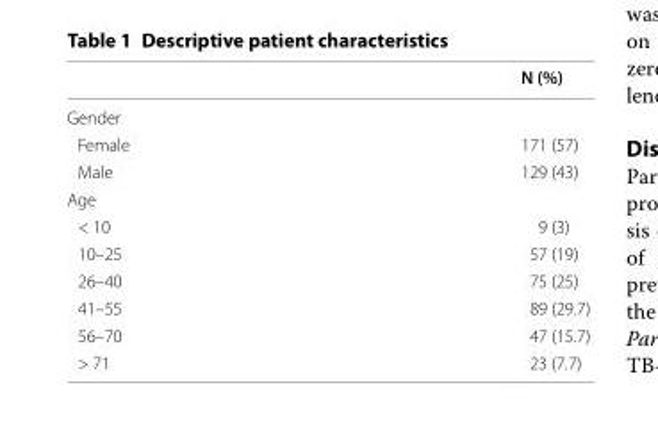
<table><thead><tr><td></td><td>N (%)</td></tr></thead><tbody><tr><td colspan="2">Gender</td></tr><tr><td>Female</td><td>171 (57)</td></tr><tr><td>Male</td><td>129 (43)</td></tr><tr><td colspan="2">Age</td></tr><tr><td>&lt; 10</td><td>9 (3)</td></tr><tr><td>10–25</td><td>57 (19)</td></tr><tr><td>26–40</td><td>75 (25)</td></tr><tr><td>41–55</td><td>89 (29.7)</td></tr><tr><td>56–70</td><td>47 (15.7)</td></tr><tr><td>&gt; 71</td><td>23 (7.7)</td></tr></tbody></table>